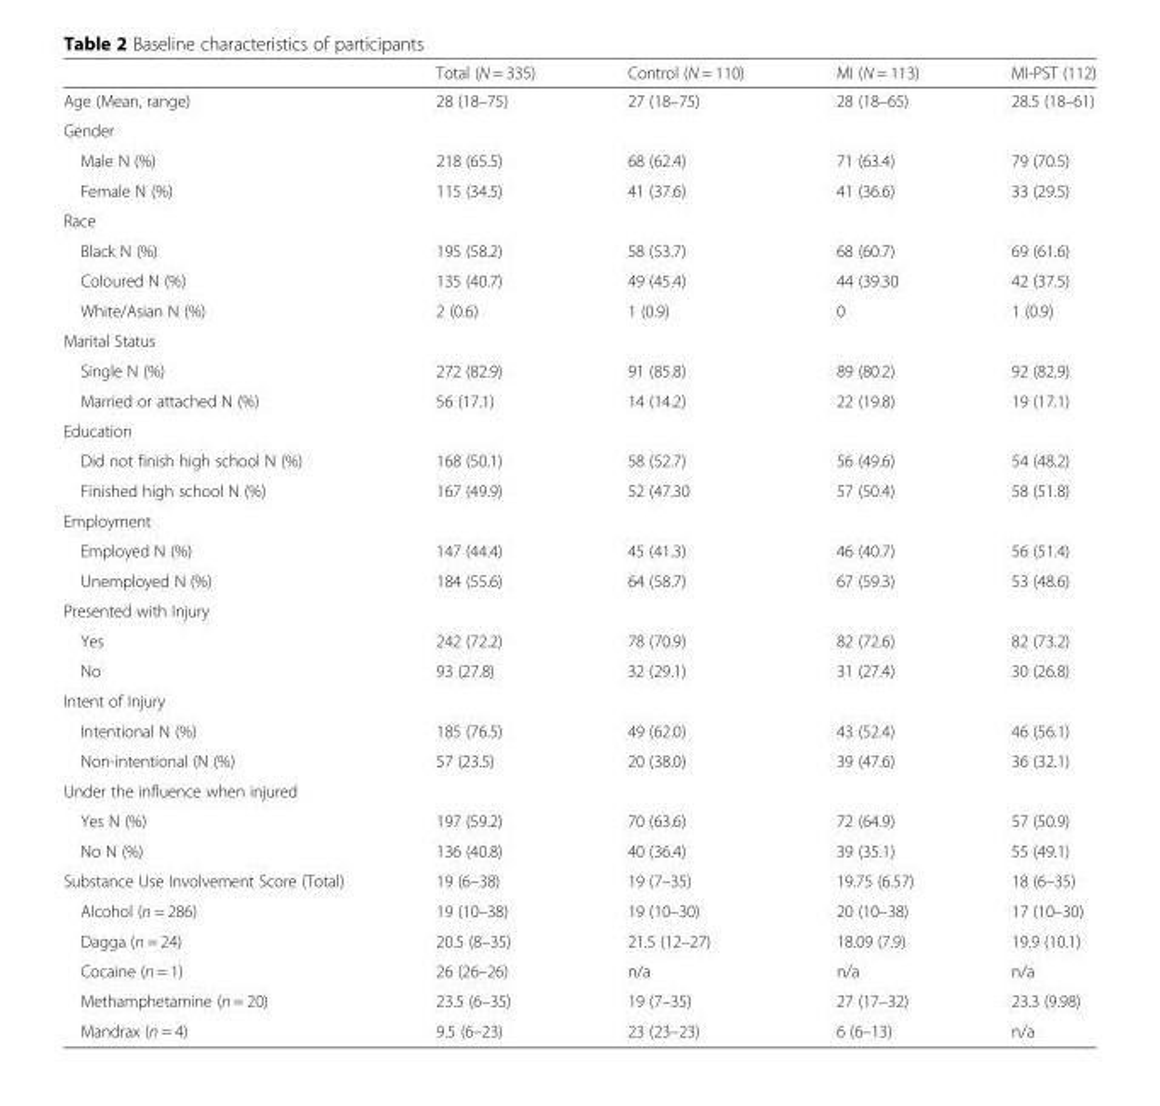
<table><thead><tr><td></td><td>Total (N = 335)</td><td>Control (N = 110)</td><td>MI (N = 113)</td><td>MI-PST (112)</td></tr></thead><tbody><tr><td>Age (Mean, range)</td><td>28 (18–75)</td><td>27 (18–75)</td><td>28 (18–65)</td><td>28.5 (18–61)</td></tr><tr><td colspan="5">Gender</td></tr><tr><td>Male N (%)</td><td>218 (65.5)</td><td>68 (62.4)</td><td>71 (63.4)</td><td>79 (70.5)</td></tr><tr><td>Female N (%)</td><td>115 (34.5)</td><td>41 (37.6)</td><td>41 (36.6)</td><td>33 (29.5)</td></tr><tr><td colspan="5">Race</td></tr><tr><td>Black N (%)</td><td>195 (58.2)</td><td>58 (53.7)</td><td>68 (60.7)</td><td>69 (61.6)</td></tr><tr><td>Coloured N (%)</td><td>135 (40.7)</td><td>49 (45.4)</td><td>44 (39.30</td><td>42 (37.5)</td></tr><tr><td>White/Asian N (%)</td><td>2 (0.6)</td><td>1 (0.9)</td><td>0</td><td>1 (0.9)</td></tr><tr><td colspan="5">Marital Status</td></tr><tr><td>Single N (%)</td><td>272 (82.9)</td><td>91 (85.8)</td><td>89 (80.2)</td><td>92 (82.9)</td></tr><tr><td>Married or attached N (%)</td><td>56 (17.1)</td><td>14 (14.2)</td><td>22 (19.8)</td><td>19 (17.1)</td></tr><tr><td colspan="5">Education</td></tr><tr><td>Did not finish high school N (%)</td><td>168 (50.1)</td><td>58 (52.7)</td><td>56 (49.6)</td><td>54 (48.2)</td></tr><tr><td>Finished high school N (%)</td><td>167 (49.9)</td><td>52 (47.30</td><td>57 (50.4)</td><td>58 (51.8)</td></tr><tr><td colspan="5">Employment</td></tr><tr><td>Employed N (%)</td><td>147 (44.4)</td><td>45 (41.3)</td><td>46 (40.7)</td><td>56 (51.4)</td></tr><tr><td>Unemployed N (%)</td><td>184 (55.6)</td><td>64 (58.7)</td><td>67 (59.3)</td><td>53 (48.6)</td></tr><tr><td colspan="5">Presented with Injury</td></tr><tr><td>Yes</td><td>242 (72.2)</td><td>78 (70.9)</td><td>82 (72.6)</td><td>82 (73.2)</td></tr><tr><td>No</td><td>93 (27.8)</td><td>32 (29.1)</td><td>31 (27.4)</td><td>30 (26.8)</td></tr><tr><td colspan="5">Intent of Injury</td></tr><tr><td>Intentional N (%)</td><td>185 (76.5)</td><td>49 (62.0)</td><td>43 (52.4)</td><td>46 (56.1)</td></tr><tr><td>Non-intentional (N (%)</td><td>57 (23.5)</td><td>20 (38.0)</td><td>39 (47.6)</td><td>36 (32.1)</td></tr><tr><td colspan="5">Under the influence when injured</td></tr><tr><td>Yes N (%)</td><td>197 (59.2)</td><td>70 (63.6)</td><td>72 (64.9)</td><td>57 (50.9)</td></tr><tr><td>No N (%)</td><td>136 (40.8)</td><td>40 (36.4)</td><td>39 (35.1)</td><td>55 (49.1)</td></tr><tr><td>Substance Use Involvement Score (Total)</td><td>19 (6–38)</td><td>19 (7–35)</td><td>19.75 (6.57)</td><td>18 (6–35)</td></tr><tr><td>Alcohol (n = 286)</td><td>19 (10–38)</td><td>19 (10–30)</td><td>20 (10–38)</td><td>17 (10–30)</td></tr><tr><td>Dagga (n = 24)</td><td>20.5 (8–35)</td><td>21.5 (12–27)</td><td>18.09 (7.9)</td><td>19.9 (10.1)</td></tr><tr><td>Cocaine (n = 1)</td><td>26 (26–26)</td><td>n/a</td><td>n/a</td><td>n/a</td></tr><tr><td>Methamphetamine (n = 20)</td><td>23.5 (6–35)</td><td>19 (7–35)</td><td>27 (17–32)</td><td>23.3 (9.98)</td></tr><tr><td>Mandrax (n = 4)</td><td>9.5 (6–23)</td><td>23 (23–23)</td><td>6 (6–13)</td><td>n/a</td></tr></tbody></table>